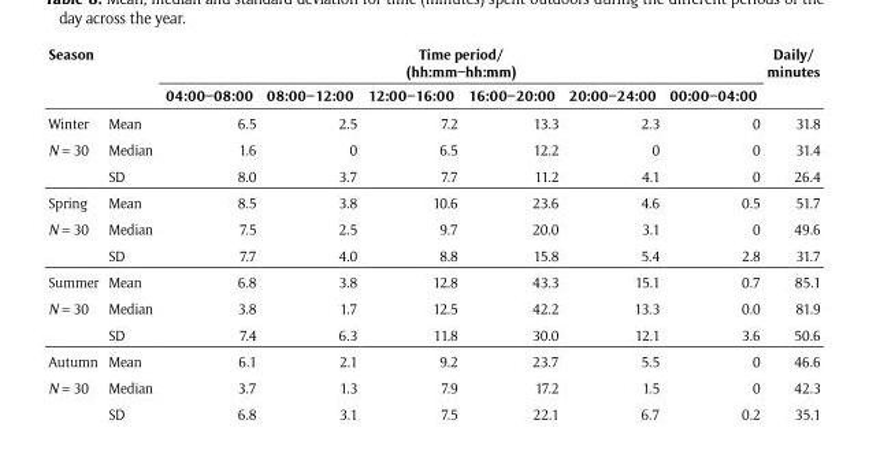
<table><thead><tr><td rowspan="2">Season</td><td rowspan="2"></td><td colspan="6">Time period/ (hh:mm–hh:mm)</td><td rowspan="2">Daily/ minutes</td></tr><tr><td>04:00–08:00</td><td>08:00–12:00</td><td>12:00–16:00</td><td>16:00–20:00</td><td>20:00–24:00</td><td>00:00–04:00</td></tr></thead><tbody><tr><td>Winter</td><td>Mean</td><td>6.5</td><td>2.5</td><td>7.2</td><td>13.3</td><td>2.3</td><td>0</td><td>31.8</td></tr><tr><td rowspan="2">N = 30</td><td>Median</td><td>1.6</td><td>0</td><td>6.5</td><td>12.2</td><td>0</td><td>0</td><td>31.4</td></tr><tr><td>SD</td><td>8.0</td><td>3.7</td><td>7.7</td><td>11.2</td><td>4.1</td><td>0</td><td>26.4</td></tr><tr><td>Spring</td><td>Mean</td><td>8.5</td><td>3.8</td><td>10.6</td><td>23.6</td><td>4.6</td><td>0.5</td><td>51.7</td></tr><tr><td rowspan="2">N = 30</td><td>Median</td><td>7.5</td><td>2.5</td><td>9.7</td><td>20.0</td><td>3.1</td><td>0</td><td>49.6</td></tr><tr><td>SD</td><td>7.7</td><td>4.0</td><td>8.8</td><td>15.8</td><td>5.4</td><td>2.8</td><td>31.7</td></tr><tr><td>Summer</td><td>Mean</td><td>6.8</td><td>3.8</td><td>12.8</td><td>43.3</td><td>15.1</td><td>0.7</td><td>85.1</td></tr><tr><td rowspan="2">N = 30</td><td>Median</td><td>3.8</td><td>1.7</td><td>12.5</td><td>42.2</td><td>13.3</td><td>0.0</td><td>81.9</td></tr><tr><td>SD</td><td>7.4</td><td>6.3</td><td>11.8</td><td>30.0</td><td>12.1</td><td>3.6</td><td>50.6</td></tr><tr><td>Autumn</td><td>Mean</td><td>6.1</td><td>2.1</td><td>9.2</td><td>23.7</td><td>5.5</td><td>0</td><td>46.6</td></tr><tr><td rowspan="2">N = 30</td><td>Median</td><td>3.7</td><td>1.3</td><td>7.9</td><td>17.2</td><td>1.5</td><td>0</td><td>42.3</td></tr><tr><td>SD</td><td>6.8</td><td>3.1</td><td>7.5</td><td>22.1</td><td>6.7</td><td>0.2</td><td>35.1</td></tr></tbody></table>